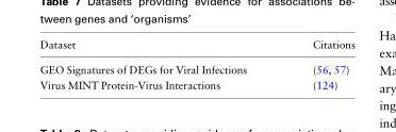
<table><thead><tr><td>Dataset</td><td>Citations</td></tr></thead><tbody><tr><td>GEO Signatures of DEGs for Viral Infections</td><td>(56, 57)</td></tr><tr><td>Virus MINT Protein-Virus Interactions</td><td>(124)</td></tr></tbody></table>